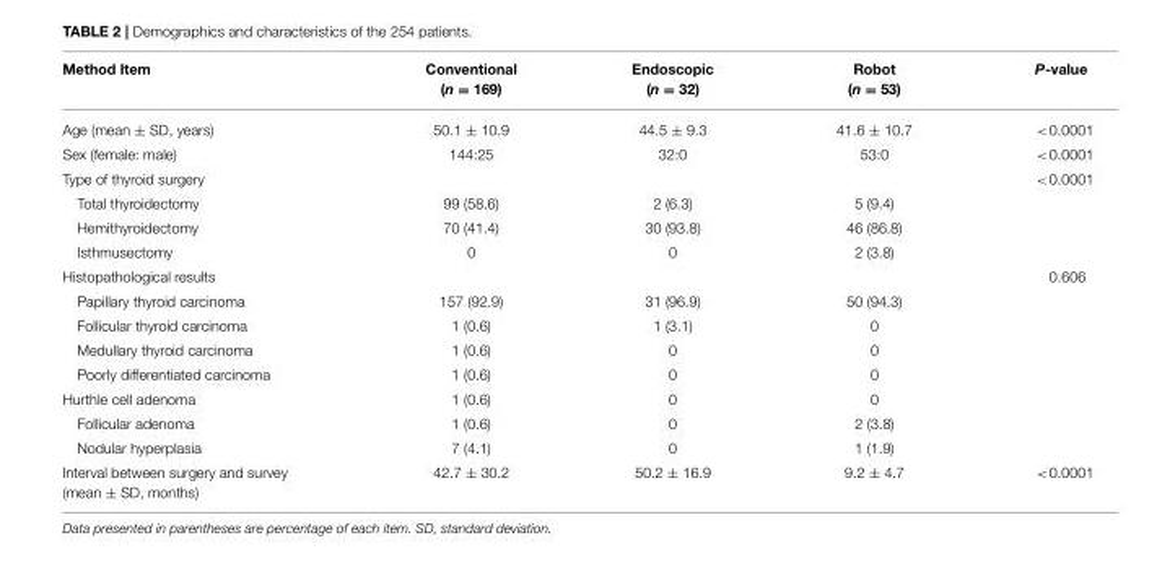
<table><thead><tr><td>Method Item</td><td>Conventional (n = 169)</td><td>Endoscopic (n = 32)</td><td>Robot (n = 53)</td><td>P-value</td></tr></thead><tbody><tr><td>Age (mean ± SD, years)</td><td>50.1 ± 10.9</td><td>44.5 ± 9.3</td><td>41.6 ± 10.7</td><td>&lt;0.0001</td></tr><tr><td>Sex (female: male)</td><td>144:25</td><td>32:0</td><td>53:0</td><td>&lt;0.0001</td></tr><tr><td>Type of thyroid surgery</td><td></td><td></td><td></td><td>&lt;0.0001</td></tr><tr><td>Total thyroidectomy</td><td>99 (58.6)</td><td>2 (6.3)</td><td>5 (9.4)</td><td></td></tr><tr><td>Hemithyroidectomy</td><td>70 (41.4)</td><td>30 (93.8)</td><td>46 (86.8)</td><td></td></tr><tr><td>Isthmusectomy</td><td>0</td><td>0</td><td>2 (3.8)</td><td></td></tr><tr><td>Histopathological results</td><td></td><td></td><td></td><td>0.606</td></tr><tr><td>Papillary thyroid carcinoma</td><td>157 (92.9)</td><td>31 (96.9)</td><td>50 (94.3)</td><td></td></tr><tr><td>Follicular thyroid carcinoma</td><td>1 (0.6)</td><td>1 (3.1)</td><td>0</td><td></td></tr><tr><td>Medullary thyroid carcinoma</td><td>1 (0.6)</td><td>0</td><td>0</td><td></td></tr><tr><td>Poorly differentiated carcinoma</td><td>1 (0.6)</td><td>0</td><td>0</td><td></td></tr><tr><td>Hurthle cell adenoma</td><td>1 (0.6)</td><td>0</td><td>0</td><td></td></tr><tr><td>Follicular adenoma</td><td>1 (0.6)</td><td>0</td><td>2 (3.8)</td><td></td></tr><tr><td>Nodular hyperplasia</td><td>7 (4.1)</td><td>0</td><td>1 (1.9)</td><td></td></tr><tr><td>Interval between surgery and survey (mean ± SD, months)</td><td>42.7 ± 30.2</td><td>50.2 ± 16.9</td><td>9.2 ± 4.7</td><td>&lt;0.0001</td></tr></tbody></table>